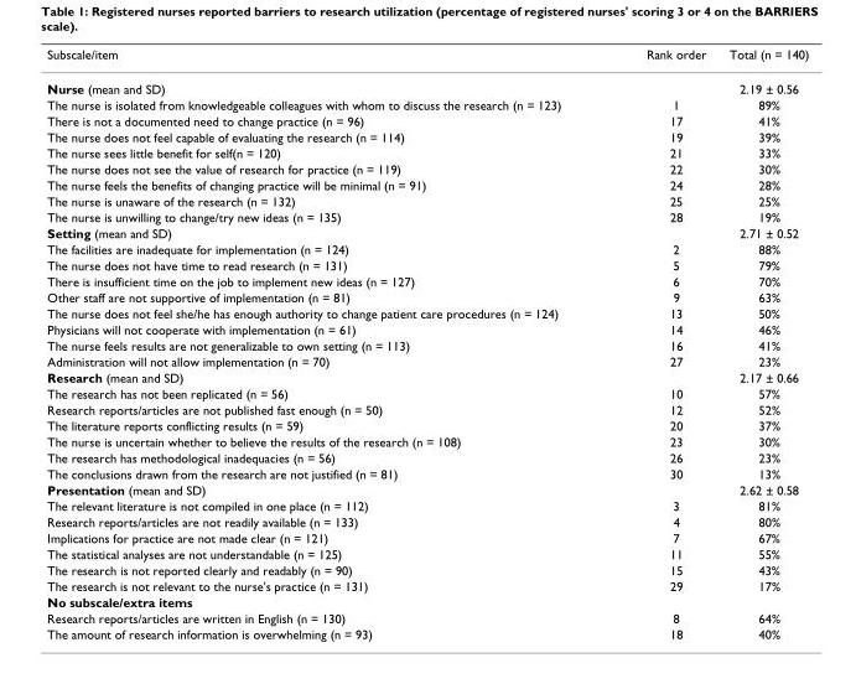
<table><thead><tr><td>Subscale/item</td><td>Rank order</td><td>Total (n = 140)</td></tr></thead><tbody><tr><td>Nurse (mean and SD)</td><td></td><td>2.19 ± 0.56</td></tr><tr><td>The nurse is isolated from knowledgeable colleagues with whom to discuss the research (n = 123)</td><td>1</td><td>89%</td></tr><tr><td>There is not a documented need to change practice (n = 96)</td><td>17</td><td>41%</td></tr><tr><td>The nurse does not feel capable of evaluating the research (n = 114)</td><td>19</td><td>39%</td></tr><tr><td>The nurse sees little benefit for self(n = 120)</td><td>21</td><td>33%</td></tr><tr><td>The nurse does not see the value of research for practice (n = 119)</td><td>22</td><td>30%</td></tr><tr><td>The nurse feels the benefits of changing practice will be minimal (n = 91)</td><td>24</td><td>28%</td></tr><tr><td>The nurse is unaware of the research (n = 132)</td><td>25</td><td>25%</td></tr><tr><td>The nurse is unwilling to change/try new ideas (n = 135)</td><td>28</td><td>19%</td></tr><tr><td>Setting (mean and SD)</td><td></td><td>2.71 ± 0.52</td></tr><tr><td>The facilities are inadequate for implementation (n = 124)</td><td>2</td><td>88%</td></tr><tr><td>The nurse does not have time to read research (n = 131)</td><td>5</td><td>79%</td></tr><tr><td>There is insufficient time on the job to implement new ideas (n = 127)</td><td>6</td><td>70%</td></tr><tr><td>Other staff are not supportive of implementation (n = 81)</td><td>9</td><td>63%</td></tr><tr><td>The nurse does not feel she/he has enough authority to change patient care procedures (n = 124)</td><td>13</td><td>50%</td></tr><tr><td>Physicians will not cooperate with implementation (n = 61)</td><td>14</td><td>46%</td></tr><tr><td>The nurse feels results are not generalizable to own setting (n = 113)</td><td>16</td><td>41%</td></tr><tr><td>Administration will not allow implementation (n = 70)</td><td>27</td><td>23%</td></tr><tr><td>Research (mean and SD)</td><td></td><td>2.17 ± 0.66</td></tr><tr><td>The research has not been replicated (n = 56)</td><td>10</td><td>57%</td></tr><tr><td>Research reports/articles are not published fast enough (n = 50)</td><td>12</td><td>52%</td></tr><tr><td>The literature reports conflicting results (n = 59)</td><td>20</td><td>37%</td></tr><tr><td>The nurse is uncertain whether to believe the results of the research (n = 108)</td><td>23</td><td>30%</td></tr><tr><td>The research has methodological inadequacies (n = 56)</td><td>26</td><td>23%</td></tr><tr><td>The conclusions drawn from the research are not justified (n = 81)</td><td>30</td><td>13%</td></tr><tr><td>Presentation (mean and SD)</td><td></td><td>2.62 ± 0.58</td></tr><tr><td>The relevant literature is not compiled in one place (n = 112)</td><td>3</td><td>81%</td></tr><tr><td>Research reports/articles are not readily available (n = 133)</td><td>4</td><td>80%</td></tr><tr><td>Implications for practice are not made clear (n = 121)</td><td>7</td><td>67%</td></tr><tr><td>The statistical analyses are not understandable (n = 125)</td><td>11</td><td>55%</td></tr><tr><td>The research is not reported clearly and readably (n = 90)</td><td>15</td><td>43%</td></tr><tr><td>The research is not relevant to the nurse&#x27;s practice (n = 131)</td><td>29</td><td>17%</td></tr><tr><td colspan="3">No subscale/extra items</td></tr><tr><td>Research reports/articles are written in English (n = 130)</td><td>8</td><td>64%</td></tr><tr><td>The amount of research information is overwhelming (n = 93)</td><td>18</td><td>40%</td></tr></tbody></table>